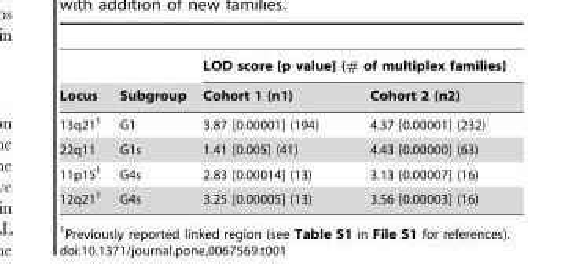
<table><thead><tr><td rowspan="2">Locus</td><td rowspan="2">Subgroup</td><td colspan="2">LOD score [p value] (# of multiplex families)</td></tr><tr><td>Cohort 1 (n1)</td><td>Cohort 2 (n2)</td></tr></thead><tbody><tr><td>13q21<sup>1</sup></td><td>G1</td><td>3.87 [0.00001] (194)</td><td>4.37 [0.00001] (232)</td></tr><tr><td>22q11</td><td>G1s</td><td>1.41 [0.005] (41)</td><td>4.43 [0.00000] (63)</td></tr><tr><td>11p15<sup>1</sup></td><td>G4s</td><td>2.83 [0.00014] (13)</td><td>3.13 [0.00007] (16)</td></tr><tr><td>12q21<sup>1</sup></td><td>G4s</td><td>3.25 [0.00005] (13)</td><td>3.56 [0.00003] (16)</td></tr></tbody></table>